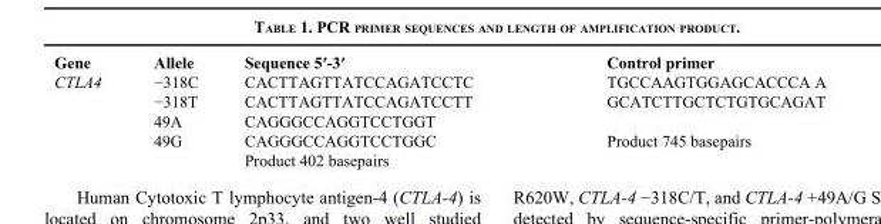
<table><thead><tr><td>Gene</td><td>Allele</td><td>Sequence 5′-3′</td><td>Control primer</td></tr></thead><tbody><tr><td rowspan="5">CTLA4</td><td>−318C</td><td>CACTTAGTTATCCAGATCCTC</td><td>TGCCAAGTGGAGCACCCA A</td></tr><tr><td>−318T</td><td>CACTTAGTTATCCAGATCCTT</td><td>GCATCTTGCTCTGTGCAGAT</td></tr><tr><td>49A</td><td>CAGGGCCAGGTCCTGGT</td><td></td></tr><tr><td>49G</td><td>CAGGGCCAGGTCCTGGC</td><td>Product 745 basepairs</td></tr><tr><td></td><td>Product 402 basepairs</td><td></td></tr></tbody></table>